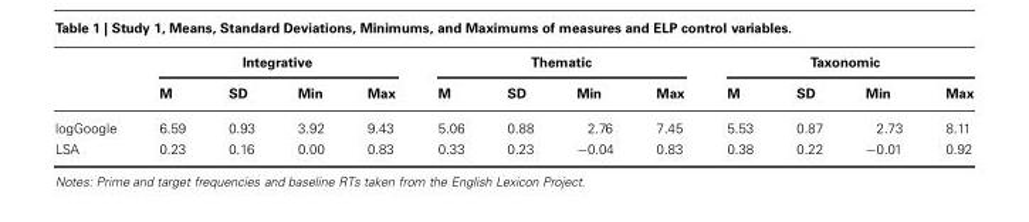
<table><thead><tr><td rowspan="2"></td><td colspan="4">Integrative</td><td colspan="4">Thematic</td><td colspan="4">Taxonomic</td></tr><tr><td>M</td><td>SD</td><td>Min</td><td>Max</td><td>M</td><td>SD</td><td>Min</td><td>Max</td><td>M</td><td>SD</td><td>Min</td><td>Max</td></tr></thead><tbody><tr><td>logGoogle</td><td>6.59</td><td>0.93</td><td>3.92</td><td>9.43</td><td>5.06</td><td>0.88</td><td>2.76</td><td>7.45</td><td>5.53</td><td>0.87</td><td>2.73</td><td>8.11</td></tr><tr><td>LSA</td><td>0.23</td><td>0.16</td><td>0.00</td><td>0.83</td><td>0.33</td><td>0.23</td><td>−0.04</td><td>0.83</td><td>0.38</td><td>0.22</td><td>−0.01</td><td>0.92</td></tr></tbody></table>